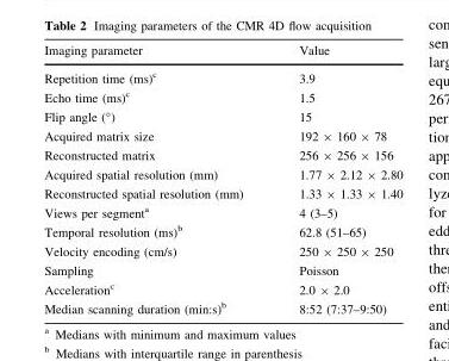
<table><thead><tr><td>Imaging parameter</td><td>Value</td></tr></thead><tbody><tr><td>Repetition time (ms)<sup>c</sup></td><td>3.9</td></tr><tr><td>Echo time (ms)<sup>c</sup></td><td>1.5</td></tr><tr><td>Flip angle (°)</td><td>15</td></tr><tr><td>Acquired matrix size</td><td>192 × 160 × 78</td></tr><tr><td>Reconstructed matrix</td><td>256 × 256 × 156</td></tr><tr><td>Acquired spatial resolution (mm)</td><td>1.77 × 2.12 × 2.80</td></tr><tr><td>Reconstructed spatial resolution (mm)</td><td>1.33 × 1.33 × 1.40</td></tr><tr><td>Views per segment<sup>a</sup></td><td>4 (3–5)</td></tr><tr><td>Temporal resolution (ms)<sup>b</sup></td><td>62.8 (51–65)</td></tr><tr><td>Velocity encoding (cm/s)</td><td>250 × 250 × 250</td></tr><tr><td>Sampling</td><td>Poisson</td></tr><tr><td>Acceleration<sup>c</sup></td><td>2.0 × 2.0</td></tr><tr><td>Median scanning duration (min:s)<sup>b</sup></td><td>8:52 (7:37–9:50)</td></tr></tbody></table>